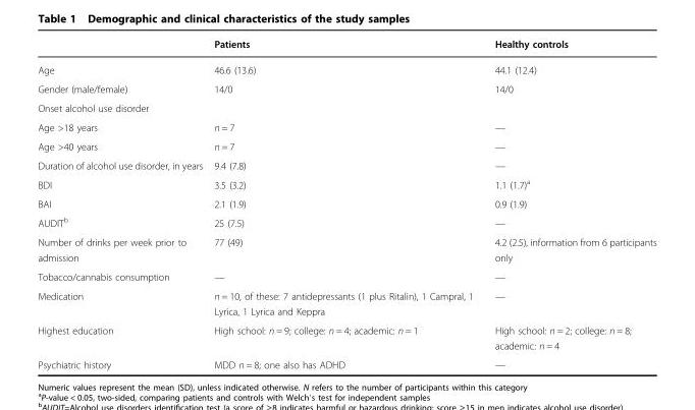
<table><thead><tr><td></td><td>Patients</td><td>Healthy controls</td></tr></thead><tbody><tr><td>Age</td><td>46.6 (13.6)</td><td>44.1 (12.4)</td></tr><tr><td>Gender (male/female)</td><td>14/0</td><td>14/0</td></tr><tr><td colspan="3">Onset alcohol use disorder</td></tr><tr><td>Age &gt;18 years</td><td>n = 7</td><td>—</td></tr><tr><td>Age &gt;40 years</td><td>n = 7</td><td>—</td></tr><tr><td>Duration of alcohol use disorder, in years</td><td>9.4 (7.8)</td><td>—</td></tr><tr><td>BDI</td><td>3.5 (3.2)</td><td>1.1 (1.7)<sup>a</sup></td></tr><tr><td>BAI</td><td>2.1 (1.9)</td><td>0.9 (1.9)</td></tr><tr><td>AUDIT<sup>b</sup></td><td>25 (7.5)</td><td>—</td></tr><tr><td>Number of drinks per week prior to admission</td><td>77 (49)</td><td>4.2 (2.5), information from 6 participants only</td></tr><tr><td>Tobacco/cannabis consumption</td><td>—</td><td>—</td></tr><tr><td>Medication</td><td>n = 10, of these: 7 antidepressants (1 plus Ritalin), 1 Campral, 1 Lyrica, 1 Lyrica and Keppra</td><td>—</td></tr><tr><td>Highest education</td><td>High school: n = 9; college: n = 4; academic: n = 1</td><td>High school: n = 2; college: n = 8; academic: n = 4</td></tr><tr><td>Psychiatric history</td><td>MDD n = 8; one also has ADHD</td><td>—</td></tr></tbody></table>